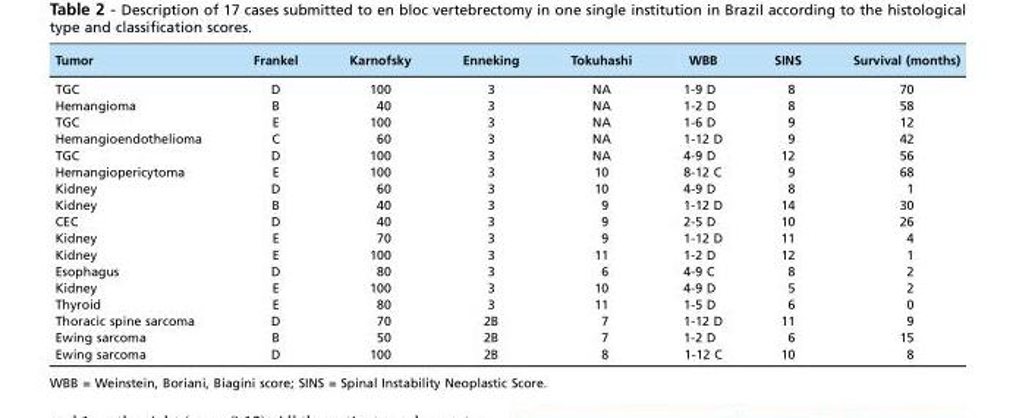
<table><thead><tr><td>Tumor</td><td>Frankel</td><td>Karnofsky</td><td>Enneking</td><td>Tokuhashi</td><td>WBB</td><td>SINS</td><td>Survival (months)</td></tr></thead><tbody><tr><td>TGC</td><td>D</td><td>100</td><td>3</td><td>NA</td><td>1-9 D</td><td>8</td><td>70</td></tr><tr><td>Hemangioma</td><td>B</td><td>40</td><td>3</td><td>NA</td><td>1-2 D</td><td>8</td><td>58</td></tr><tr><td>TGC</td><td>E</td><td>100</td><td>3</td><td>NA</td><td>1-6 D</td><td>9</td><td>12</td></tr><tr><td>Hemangioendothelioma</td><td>C</td><td>60</td><td>3</td><td>NA</td><td>1-12 D</td><td>9</td><td>42</td></tr><tr><td>TGC</td><td>D</td><td>100</td><td>3</td><td>NA</td><td>4-9 D</td><td>12</td><td>56</td></tr><tr><td>Hemangiopericytoma</td><td>E</td><td>100</td><td>3</td><td>10</td><td>8-12 C</td><td>9</td><td>68</td></tr><tr><td>Kidney</td><td>D</td><td>60</td><td>3</td><td>10</td><td>4-9 D</td><td>8</td><td>1</td></tr><tr><td>Kidney</td><td>B</td><td>40</td><td>3</td><td>9</td><td>1-12 D</td><td>14</td><td>30</td></tr><tr><td>CEC</td><td>D</td><td>40</td><td>3</td><td>9</td><td>2-5 D</td><td>10</td><td>26</td></tr><tr><td>Kidney</td><td>E</td><td>70</td><td>3</td><td>9</td><td>1-12 D</td><td>11</td><td>4</td></tr><tr><td>Kidney</td><td>E</td><td>100</td><td>3</td><td>11</td><td>1-2 D</td><td>12</td><td>1</td></tr><tr><td>Esophagus</td><td>D</td><td>80</td><td>3</td><td>6</td><td>4-9 C</td><td>8</td><td>2</td></tr><tr><td>Kidney</td><td>E</td><td>100</td><td>3</td><td>10</td><td>4-9 D</td><td>5</td><td>2</td></tr><tr><td>Thyroid</td><td>E</td><td>80</td><td>3</td><td>11</td><td>1-5 D</td><td>6</td><td>0</td></tr><tr><td>Thoracic spine sarcoma</td><td>D</td><td>70</td><td>2B</td><td>7</td><td>1-12 D</td><td>11</td><td>9</td></tr><tr><td>Ewing sarcoma</td><td>B</td><td>50</td><td>2B</td><td>7</td><td>1-2 D</td><td>6</td><td>15</td></tr><tr><td>Ewing sarcoma</td><td>D</td><td>100</td><td>2B</td><td>8</td><td>1-12 C</td><td>10</td><td>8</td></tr></tbody></table>